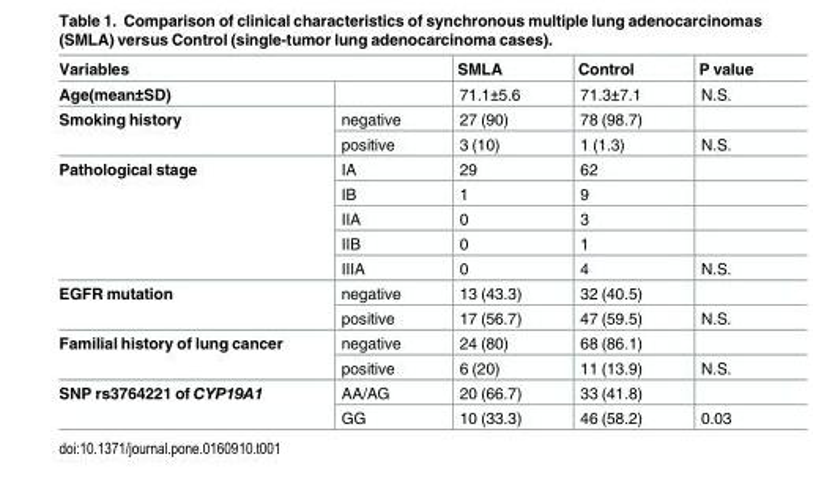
<table><thead><tr><td colspan="2">Variables</td><td rowspan="2">SMLA 71.1±5.6</td><td rowspan="2">Control 71.3±7.1</td><td rowspan="2">P value N.S.</td></tr><tr><td>Age(mean±SD)</td><td></td></tr></thead><tbody><tr><td rowspan="2">Smoking history</td><td>negative</td><td>27 (90)</td><td>78 (98.7)</td><td></td></tr><tr><td>positive</td><td>3 (10)</td><td>1 (1.3)</td><td>N.S.</td></tr><tr><td rowspan="5">Pathological stage</td><td>IA</td><td>29</td><td>62</td><td></td></tr><tr><td>IB</td><td>1</td><td>9</td><td></td></tr><tr><td>IIA</td><td>0</td><td>3</td><td></td></tr><tr><td>IIB</td><td>0</td><td>1</td><td></td></tr><tr><td>IIIA</td><td>0</td><td>4</td><td>N.S.</td></tr><tr><td rowspan="2">EGFR mutation</td><td>negative</td><td>13 (43.3)</td><td>32 (40.5)</td><td></td></tr><tr><td>positive</td><td>17 (56.7)</td><td>47 (59.5)</td><td>N.S.</td></tr><tr><td rowspan="2">Familial history of lung cancer</td><td>negative</td><td>24 (80)</td><td>68 (86.1)</td><td></td></tr><tr><td>positive</td><td>6 (20)</td><td>11 (13.9)</td><td>N.S.</td></tr><tr><td rowspan="2">SNP rs3764221 of CYP19A1</td><td>AA/AG</td><td>20 (66.7)</td><td>33 (41.8)</td><td></td></tr><tr><td>GG</td><td>10 (33.3)</td><td>46 (58.2)</td><td>0.03</td></tr></tbody></table>